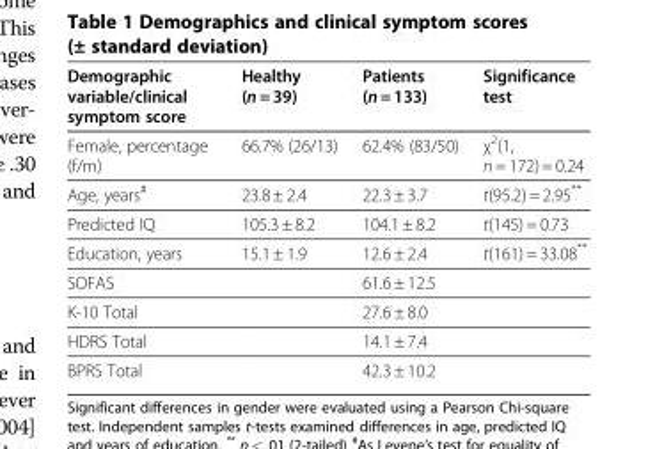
<table><thead><tr><td>Demographic variable/clinical symptom score</td><td>Healthy (n = 39)</td><td>Patients (n = 133)</td><td>Significance test</td></tr></thead><tbody><tr><td>Female, percentage (f/m)</td><td>66.7% (26/13)</td><td>62.4% (83/50)</td><td>χ<sup>2</sup>(1, n = 172) = 0.24</td></tr><tr><td>Age, years<sup>#</sup></td><td>23.8 ± 2.4</td><td>22.3 ± 3.7</td><td>t(95.2) = 2.95**</td></tr><tr><td>Predicted IQ</td><td>105.3 ± 8.2</td><td>104.1 ± 8.2</td><td>t(145) = 0.73</td></tr><tr><td>Education, years</td><td>15.1 ± 1.9</td><td>12.6 ± 2.4</td><td>t(161) = 33.08**</td></tr><tr><td>SOFAS</td><td></td><td>61.6 ± 12.5</td><td></td></tr><tr><td>K-10 Total</td><td></td><td>27.6 ± 8.0</td><td></td></tr><tr><td>HDRS Total</td><td></td><td>14.1 ± 7.4</td><td></td></tr><tr><td>BPRS Total</td><td></td><td>42.3 ± 10.2</td><td></td></tr></tbody></table>